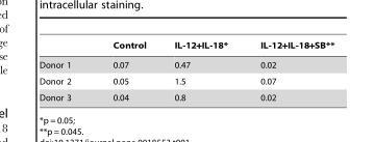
<table><thead><tr><td></td><td>Control</td><td>IL-12+IL-18*</td><td>IL-12+IL-18+SB**</td></tr></thead><tbody><tr><td>Donor 1</td><td>0.07</td><td>0.47</td><td>0.02</td></tr><tr><td>Donor 2</td><td>0.05</td><td>1.5</td><td>0.07</td></tr><tr><td>Donor 3</td><td>0.04</td><td>0.8</td><td>0.02</td></tr></tbody></table>